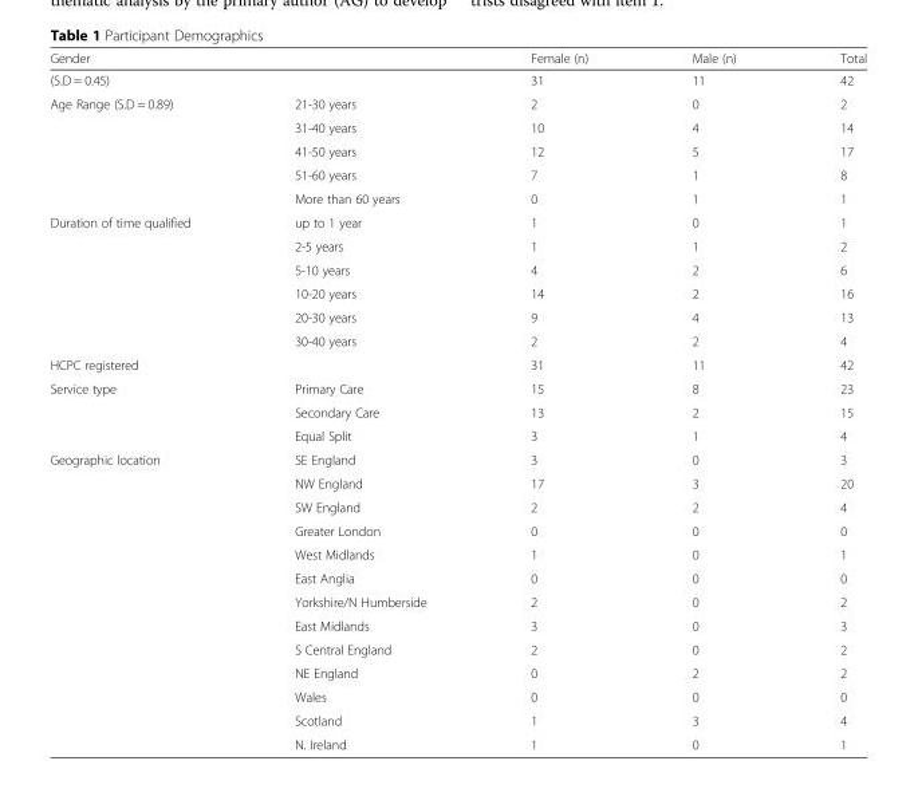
<table><thead><tr><td>Gender</td><td></td><td>Female (n)</td><td>Male (n)</td><td>Total</td></tr></thead><tbody><tr><td>(S.D = 0.45)</td><td></td><td>31</td><td>11</td><td>42</td></tr><tr><td rowspan="5">Age Range (S.D = 0.89)</td><td>21-30 years</td><td>2</td><td>0</td><td>2</td></tr><tr><td>31-40 years</td><td>10</td><td>4</td><td>14</td></tr><tr><td>41-50 years</td><td>12</td><td>5</td><td>17</td></tr><tr><td>51-60 years</td><td>7</td><td>1</td><td>8</td></tr><tr><td>More than 60 years</td><td>0</td><td>1</td><td>1</td></tr><tr><td rowspan="6">Duration of time qualified</td><td>up to 1 year</td><td>1</td><td>0</td><td>1</td></tr><tr><td>2-5 years</td><td>1</td><td>1</td><td>2</td></tr><tr><td>5-10 years</td><td>4</td><td>2</td><td>6</td></tr><tr><td>10-20 years</td><td>14</td><td>2</td><td>16</td></tr><tr><td>20-30 years</td><td>9</td><td>4</td><td>13</td></tr><tr><td>30-40 years</td><td>2</td><td>2</td><td>4</td></tr><tr><td>HCPC registered</td><td></td><td>31</td><td>11</td><td>42</td></tr><tr><td rowspan="3">Service type</td><td>Primary Care</td><td>15</td><td>8</td><td>23</td></tr><tr><td>Secondary Care</td><td>13</td><td>2</td><td>15</td></tr><tr><td>Equal Split</td><td>3</td><td>1</td><td>4</td></tr><tr><td rowspan="13">Geographic location</td><td>SE England</td><td>3</td><td>0</td><td>3</td></tr><tr><td>NW England</td><td>17</td><td>3</td><td>20</td></tr><tr><td>SW England</td><td>2</td><td>2</td><td>4</td></tr><tr><td>Greater London</td><td>0</td><td>0</td><td>0</td></tr><tr><td>West Midlands</td><td>1</td><td>0</td><td>1</td></tr><tr><td>East Anglia</td><td>0</td><td>0</td><td>0</td></tr><tr><td>Yorkshire/N Humberside</td><td>2</td><td>0</td><td>2</td></tr><tr><td>East Midlands</td><td>3</td><td>0</td><td>3</td></tr><tr><td>S Central England</td><td>2</td><td>0</td><td>2</td></tr><tr><td>NE England</td><td>0</td><td>2</td><td>2</td></tr><tr><td>Wales</td><td>0</td><td>0</td><td>0</td></tr><tr><td>Scotland</td><td>1</td><td>3</td><td>4</td></tr><tr><td>N. Ireland</td><td>1</td><td>0</td><td>1</td></tr></tbody></table>